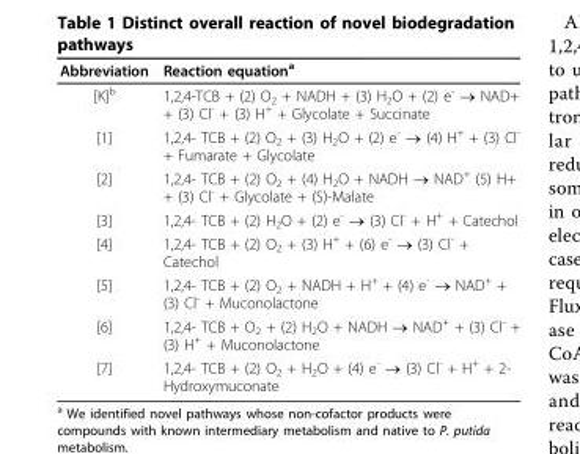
<table><thead><tr><td>Abbreviation</td><td>Reaction equation<sup>a</sup></td></tr></thead><tbody><tr><td>[K]<sup>b</sup></td><td>1,2,4-TCB + (2) O<sub>2</sub> + NADH + (3) H<sub>2</sub>O + (2) e<sup>-</sup> → NAD+ + (3) Cl<sup>-</sup> + (3) H<sup>+</sup> + Glycolate + Succinate</td></tr><tr><td>[1]</td><td>1,2,4- TCB + (2) O<sub>2</sub> + (3) H<sub>2</sub>O + (2) e<sup>-</sup> → (4) H<sup>+</sup> + (3) Cl<sup>-</sup> + Fumarate + Glycolate</td></tr><tr><td>[2]</td><td>1,2,4- TCB + (2) O<sub>2</sub> + (4) H<sub>2</sub>O + NADH → NAD<sup>+</sup> (5) H+ + (3) Cl<sup>-</sup> + Glycolate + (S)-Malate</td></tr><tr><td>[3]</td><td>1,2,4- TCB + (2) H<sub>2</sub>O + (2) e<sup>-</sup> → (3) Cl<sup>-</sup> + H<sup>+</sup> + Catechol</td></tr><tr><td>[4]</td><td>1,2,4- TCB + (2) O<sub>2</sub> + (3) H<sup>+</sup> + (6) e<sup>-</sup> → (3) Cl<sup>-</sup> + Catechol</td></tr><tr><td>[5]</td><td>1,2,4- TCB + (2) O<sub>2</sub> + NADH + H<sup>+</sup> + (4) e<sup>-</sup> → NAD<sup>+</sup> + (3) Cl<sup>-</sup> + Muconolactone</td></tr><tr><td>[6]</td><td>1,2,4- TCB + O<sub>2</sub> + (2) H<sub>2</sub>O + NADH → NAD<sup>+</sup> + (3) Cl<sup>-</sup> + (3) H<sup>+</sup> + Muconolactone</td></tr><tr><td>[7]</td><td>1,2,4- TCB + (2) O<sub>2</sub> + H<sub>2</sub>O + (4) e<sup>-</sup> → (3) Cl<sup>-</sup> + H<sup>+</sup> + 2- Hydroxymuconate</td></tr></tbody></table>